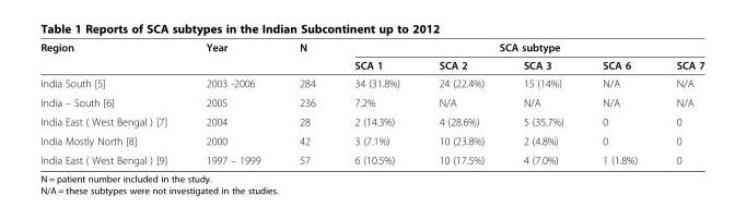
<table><thead><tr><td rowspan="2">Region</td><td rowspan="2">Year</td><td rowspan="2">N</td><td colspan="5">SCA subtype</td></tr><tr><td>SCA 1</td><td>SCA 2</td><td>SCA 3</td><td>SCA 6</td><td>SCA 7</td></tr></thead><tbody><tr><td>India South [5]</td><td>2003 -2006</td><td>284</td><td>34 (31.8%)</td><td>24 (22.4%)</td><td>15 (14%)</td><td>N/A</td><td>N/A</td></tr><tr><td>India – South [6]</td><td>2005</td><td>236</td><td>7.2%</td><td>N/A</td><td>N/A</td><td>N/A</td><td>N/A</td></tr><tr><td>India East ( West Bengal ) [7]</td><td>2004</td><td>28</td><td>2 (14.3%)</td><td>4 (28.6%)</td><td>5 (35.7%)</td><td>0</td><td>0</td></tr><tr><td>India Mostly North [8]</td><td>2000</td><td>42</td><td>3 (7.1%)</td><td>10 (23.8%)</td><td>2 (4.8%)</td><td>0</td><td>0</td></tr><tr><td>India East ( West Bengal ) [9]</td><td>1997 – 1999</td><td>57</td><td>6 (10.5%)</td><td>10 (17.5%)</td><td>4 (7.0%)</td><td>1 (1.8%)</td><td>0</td></tr></tbody></table>